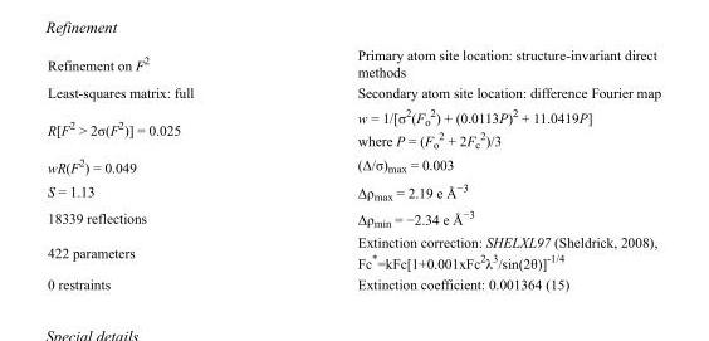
<table><tbody><tr><td>Refinement on F<sup>2</sup></td><td>Primary atom site location: structure-invariant direct methods</td></tr><tr><td>Least-squares matrix: full</td><td>Secondary atom site location: difference Fourier map</td></tr><tr><td>R[F<sup>2</sup> &gt; 2σ(F<sup>2</sup>)] = 0.025</td><td>w = 1/[σ<sup>2</sup>(F<sub>o</sub> <sup>2</sup>) + (0.0113P)<sup>2</sup> + 11.0419P] where P = (F<sub>o</sub> <sup>2</sup> + 2F<sub>c</sub> <sup>2</sup>)/3</td></tr><tr><td>wR(F<sup>2</sup>) = 0.049</td><td>(Δ/σ)<sub>max</sub> = 0.003</td></tr><tr><td>S = 1.13</td><td>Δρ<sub>max</sub> = 2.19 e Å<sup>−3</sup></td></tr><tr><td>18339 reflections</td><td>Δρ<sub>min</sub> = −2.34 e Å<sup>−3</sup></td></tr><tr><td>422 parameters</td><td>Extinction correction: SHELXL97 (Sheldrick, 2008), Fc*=kFc[1+0.001xFc<sup>2</sup>λ<sup>3</sup>/sin(2θ)]<sup>-1/4</sup></td></tr><tr><td>0 restraints</td><td>Extinction coefficient: 0.001364 (15)</td></tr></tbody></table>